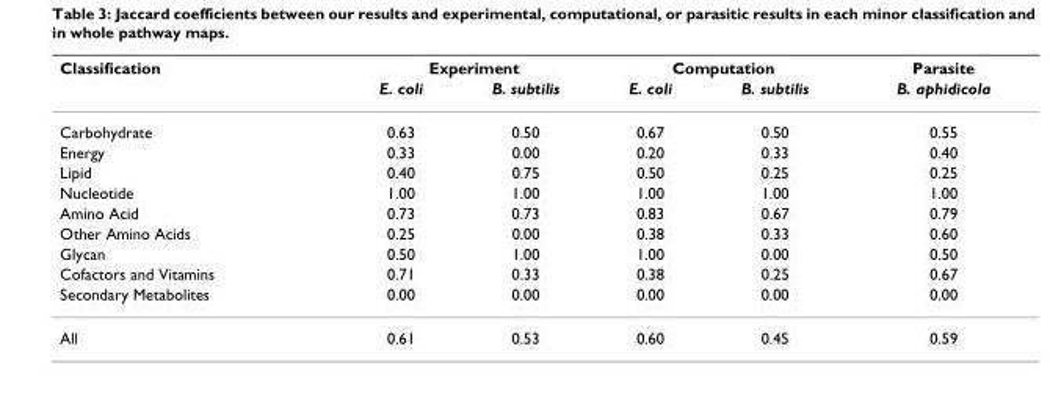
<table><thead><tr><td rowspan="2">Classification</td><td colspan="2">Experiment</td><td colspan="2">Computation</td><td rowspan="2">Parasite B. aphidicola</td></tr><tr><td>E. coli</td><td>B. subtilis</td><td>E. coli</td><td>B. subtilis</td></tr></thead><tbody><tr><td>Carbohydrate</td><td>0.63</td><td>0.50</td><td>0.67</td><td>0.50</td><td>0.55</td></tr><tr><td>Energy</td><td>0.33</td><td>0.00</td><td>0.20</td><td>0.33</td><td>0.40</td></tr><tr><td>Lipid</td><td>0.40</td><td>0.75</td><td>0.50</td><td>0.25</td><td>0.25</td></tr><tr><td>Nucleotide</td><td>1.00</td><td>1.00</td><td>1.00</td><td>1.00</td><td>1.00</td></tr><tr><td>Amino Acid</td><td>0.73</td><td>0.73</td><td>0.83</td><td>0.67</td><td>0.79</td></tr><tr><td>Other Amino Acids</td><td>0.25</td><td>0.00</td><td>0.38</td><td>0.33</td><td>0.60</td></tr><tr><td>Glycan</td><td>0.50</td><td>1.00</td><td>1.00</td><td>0.00</td><td>0.50</td></tr><tr><td>Cofactors and Vitamins</td><td>0.71</td><td>0.33</td><td>0.38</td><td>0.25</td><td>0.67</td></tr><tr><td>Secondary Metabolites</td><td>0.00</td><td>0.00</td><td>0.00</td><td>0.00</td><td>0.00</td></tr><tr><td>All</td><td>0.61</td><td>0.53</td><td>0.60</td><td>0.45</td><td>0.59</td></tr></tbody></table>